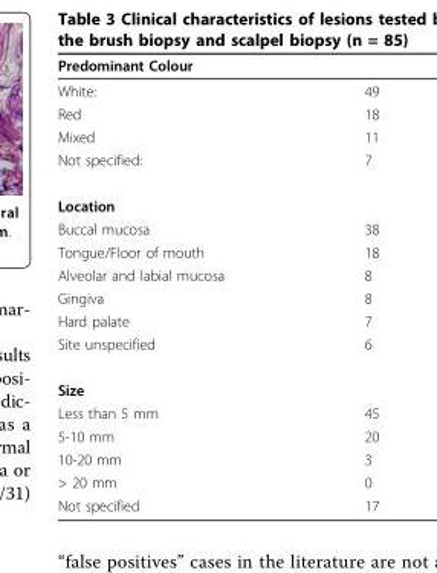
<table><thead><tr><td>Predominant Colour</td><td></td></tr></thead><tbody><tr><td>White:</td><td>49</td></tr><tr><td>Red</td><td>18</td></tr><tr><td>Mixed</td><td>11</td></tr><tr><td>Not specified:</td><td>7</td></tr><tr><td colspan="2">Location</td></tr><tr><td>Buccal mucosa</td><td>38</td></tr><tr><td>Tongue/Floor of mouth</td><td>18</td></tr><tr><td>Alveolar and labial mucosa</td><td>8</td></tr><tr><td>Gingiva</td><td>8</td></tr><tr><td>Hard palate</td><td>7</td></tr><tr><td>Site unspecified</td><td>6</td></tr><tr><td colspan="2">Size</td></tr><tr><td>Less than 5 mm</td><td>45</td></tr><tr><td>5-10 mm</td><td>20</td></tr><tr><td>10-20 mm</td><td>3</td></tr><tr><td>&gt; 20 mm</td><td>0</td></tr><tr><td>Not specified</td><td>17</td></tr></tbody></table>